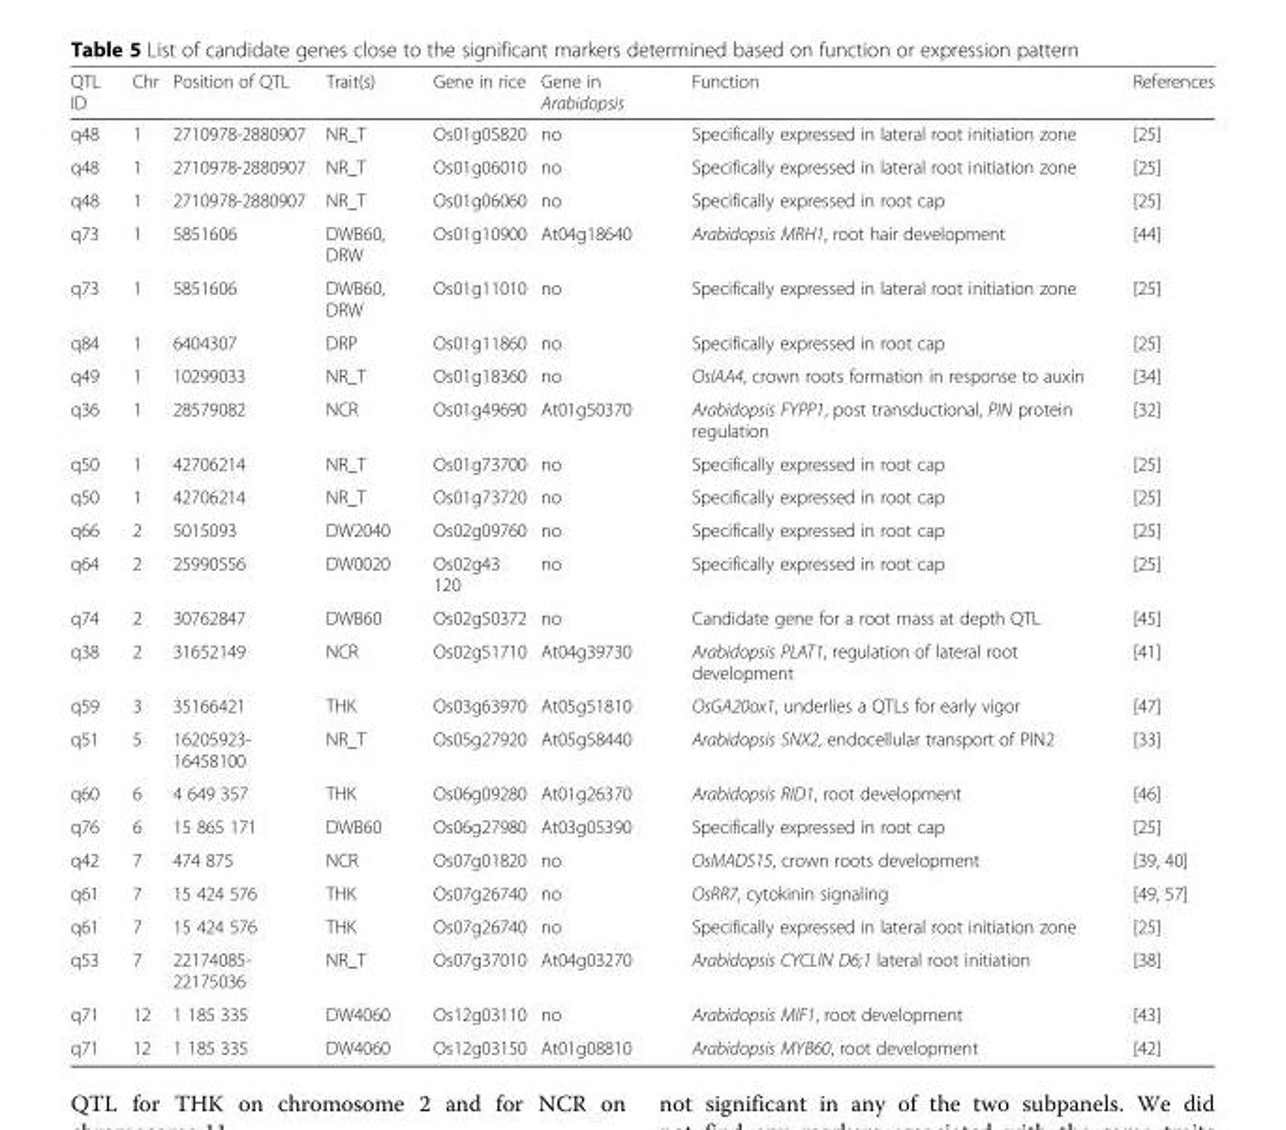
<table><thead><tr><td>QTL ID</td><td>Chr</td><td>Position of QTL</td><td>Trait(s)</td><td>Gene in rice</td><td>Gene in Arabidopsis</td><td>Function</td><td>References</td></tr></thead><tbody><tr><td>q48</td><td>1</td><td>2710978-2880907</td><td>NR_T</td><td>Os01g05820</td><td>no</td><td>Specifically expressed in lateral root initiation zone</td><td>[25]</td></tr><tr><td>q48</td><td>1</td><td>2710978-2880907</td><td>NR_T</td><td>Os01g06010</td><td>no</td><td>Specifically expressed in lateral root initiation zone</td><td>[25]</td></tr><tr><td>q48</td><td>1</td><td>2710978-2880907</td><td>NR_T</td><td>Os01g06060</td><td>no</td><td>Specifically expressed in root cap</td><td>[25]</td></tr><tr><td>q73</td><td>1</td><td>5851606</td><td>DWB60, DRW</td><td>Os01g10900</td><td>At04g18640</td><td>Arabidopsis MRH1, root hair development</td><td>[44]</td></tr><tr><td>q73</td><td>1</td><td>5851606</td><td>DWB60, DRW</td><td>Os01g11010</td><td>no</td><td>Specifically expressed in lateral root initiation zone</td><td>[25]</td></tr><tr><td>q84</td><td>1</td><td>6404307</td><td>DRP</td><td>Os01g11860</td><td>no</td><td>Specifically expressed in root cap</td><td>[25]</td></tr><tr><td>q49</td><td>1</td><td>10299033</td><td>NR_T</td><td>Os01g18360</td><td>no</td><td>OsIAA4, crown roots formation in response to auxin</td><td>[34]</td></tr><tr><td>q36</td><td>1</td><td>28579082</td><td>NCR</td><td>Os01g49690</td><td>At01g50370</td><td>Arabidopsis FYPP1, post transductional, PIN protein regulation</td><td>[32]</td></tr><tr><td>q50</td><td>1</td><td>42706214</td><td>NR_T</td><td>Os01g73700</td><td>no</td><td>Specifically expressed in root cap</td><td>[25]</td></tr><tr><td>q50</td><td>1</td><td>42706214</td><td>NR_T</td><td>Os01g73720</td><td>no</td><td>Specifically expressed in root cap</td><td>[25]</td></tr><tr><td>q66</td><td>2</td><td>5015093</td><td>DW2040</td><td>Os02g09760</td><td>no</td><td>Specifically expressed in root cap</td><td>[25]</td></tr><tr><td>q64</td><td>2</td><td>25990556</td><td>DW0020</td><td>Os02g43 120</td><td>no</td><td>Specifically expressed in root cap</td><td>[25]</td></tr><tr><td>q74</td><td>2</td><td>30762847</td><td>DWB60</td><td>Os02g50372</td><td>no</td><td>Candidate gene for a root mass at depth QTL</td><td>[45]</td></tr><tr><td>q38</td><td>2</td><td>31652149</td><td>NCR</td><td>Os02g51710</td><td>At04g39730</td><td>Arabidopsis PLAT1, regulation of lateral root development</td><td>[41]</td></tr><tr><td>q59</td><td>3</td><td>35166421</td><td>THK</td><td>Os03g63970</td><td>At05g51810</td><td>OsGA20ox1, underlies a QTLs for early vigor</td><td>[47]</td></tr><tr><td>q51</td><td>5</td><td>16205923- 16458100</td><td>NR_T</td><td>Os05g27920</td><td>At05g58440</td><td>Arabidopsis SNX2, endocellular transport of PIN2</td><td>[33]</td></tr><tr><td>q60</td><td>6</td><td>4 649 357</td><td>THK</td><td>Os06g09280</td><td>At01g26370</td><td>Arabidopsis RID1, root development</td><td>[46]</td></tr><tr><td>q76</td><td>6</td><td>15 865 171</td><td>DWB60</td><td>Os06g27980</td><td>At03g05390</td><td>Specifically expressed in root cap</td><td>[25]</td></tr><tr><td>q42</td><td>7</td><td>474 875</td><td>NCR</td><td>Os07g01820</td><td>no</td><td>OsMADS15, crown roots development</td><td>[39, 40]</td></tr><tr><td>q61</td><td>7</td><td>15 424 576</td><td>THK</td><td>Os07g26740</td><td>no</td><td>OsRR7, cytokinin signaling</td><td>[49, 57]</td></tr><tr><td>q61</td><td>7</td><td>15 424 576</td><td>THK</td><td>Os07g26740</td><td>no</td><td>Specifically expressed in lateral root initiation zone</td><td>[25]</td></tr><tr><td>q53</td><td>7</td><td>22174085- 22175036</td><td>NR_T</td><td>Os07g37010</td><td>At04g03270</td><td>Arabidopsis CYCLIN D6;1 lateral root initiation</td><td>[38]</td></tr><tr><td>q71</td><td>12</td><td>1 185 335</td><td>DW4060</td><td>Os12g03110</td><td>no</td><td>Arabidopsis MIF1, root development</td><td>[43]</td></tr><tr><td>q71</td><td>12</td><td>1 185 335</td><td>DW4060</td><td>Os12g03150</td><td>At01g08810</td><td>Arabidopsis MYB60, root development</td><td>[42]</td></tr></tbody></table>